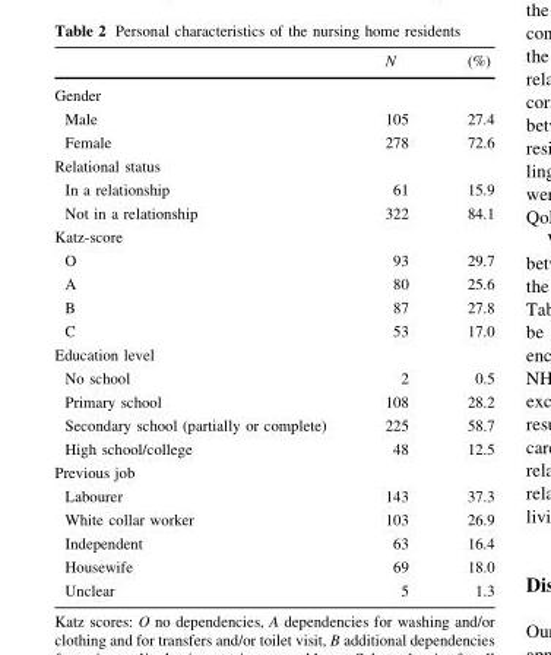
<table><thead><tr><td></td><td>N</td><td>(%)</td></tr></thead><tbody><tr><td colspan="3">Gender</td></tr><tr><td>Male</td><td>105</td><td>27.4</td></tr><tr><td>Female</td><td>278</td><td>72.6</td></tr><tr><td colspan="3">Relational status</td></tr><tr><td>In a relationship</td><td>61</td><td>15.9</td></tr><tr><td>Not in a relationship</td><td>322</td><td>84.1</td></tr><tr><td colspan="3">Katz-score</td></tr><tr><td>O</td><td>93</td><td>29.7</td></tr><tr><td>A</td><td>80</td><td>25.6</td></tr><tr><td>B</td><td>87</td><td>27.8</td></tr><tr><td>C</td><td>53</td><td>17.0</td></tr><tr><td colspan="3">Education level</td></tr><tr><td>No school</td><td>2</td><td>0.5</td></tr><tr><td>Primary school</td><td>108</td><td>28.2</td></tr><tr><td>Secondary school (partially or complete)</td><td>225</td><td>58.7</td></tr><tr><td>High school/college</td><td>48</td><td>12.5</td></tr><tr><td colspan="3">Previous job</td></tr><tr><td>Labourer</td><td>143</td><td>37.3</td></tr><tr><td>White collar worker</td><td>103</td><td>26.9</td></tr><tr><td>Independent</td><td>63</td><td>16.4</td></tr><tr><td>Housewife</td><td>69</td><td>18.0</td></tr><tr><td>Unclear</td><td>5</td><td>1.3</td></tr></tbody></table>